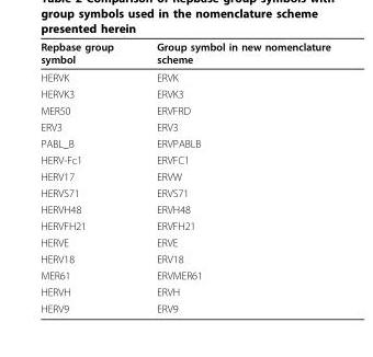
<table><thead><tr><td>Repbase group symbol</td><td>Group symbol in new nomenclature scheme</td></tr></thead><tbody><tr><td>HERVK</td><td>ERVK</td></tr><tr><td>HERVK3</td><td>ERVK3</td></tr><tr><td>MER50</td><td>ERVFRD</td></tr><tr><td>ERV3</td><td>ERV3</td></tr><tr><td>PABL_B</td><td>ERVPABLB</td></tr><tr><td>HERV-Fc1</td><td>ERVFC1</td></tr><tr><td>HERV17</td><td>ERVW</td></tr><tr><td>HERVS71</td><td>ERVS71</td></tr><tr><td>HERVH48</td><td>ERVH48</td></tr><tr><td>HERVFH21</td><td>ERVFH21</td></tr><tr><td>HERVE</td><td>ERVE</td></tr><tr><td>HERV18</td><td>ERV18</td></tr><tr><td>MER61</td><td>ERVMER61</td></tr><tr><td>HERVH</td><td>ERVH</td></tr><tr><td>HERV9</td><td>ERV9</td></tr></tbody></table>